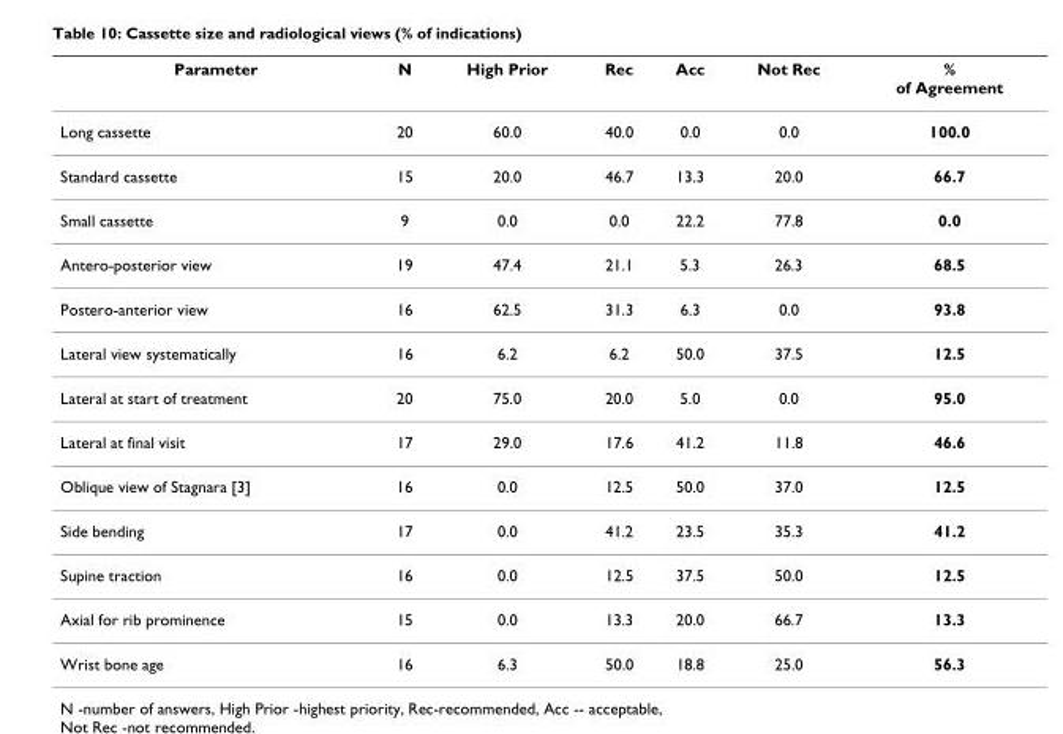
<table><thead><tr><td>Parameter</td><td>N</td><td>High Prior</td><td>Rec</td><td>Acc</td><td>Not Rec</td><td>% of Agreement</td></tr></thead><tbody><tr><td>Long cassette</td><td>20</td><td>60.0</td><td>40.0</td><td>0.0</td><td>0.0</td><td>100.0</td></tr><tr><td>Standard cassette</td><td>15</td><td>20.0</td><td>46.7</td><td>13.3</td><td>20.0</td><td>66.7</td></tr><tr><td>Small cassette</td><td>9</td><td>0.0</td><td>0.0</td><td>22.2</td><td>77.8</td><td>0.0</td></tr><tr><td>Antero-posterior view</td><td>19</td><td>47.4</td><td>21.1</td><td>5.3</td><td>26.3</td><td>68.5</td></tr><tr><td>Postero-anterior view</td><td>16</td><td>62.5</td><td>31.3</td><td>6.3</td><td>0.0</td><td>93.8</td></tr><tr><td>Lateral view systematically</td><td>16</td><td>6.2</td><td>6.2</td><td>50.0</td><td>37.5</td><td>12.5</td></tr><tr><td>Lateral at start of treatment</td><td>20</td><td>75.0</td><td>20.0</td><td>5.0</td><td>0.0</td><td>95.0</td></tr><tr><td>Lateral at final visit</td><td>17</td><td>29.0</td><td>17.6</td><td>41.2</td><td>11.8</td><td>46.6</td></tr><tr><td>Oblique view of Stagnara [3]</td><td>16</td><td>0.0</td><td>12.5</td><td>50.0</td><td>37.0</td><td>12.5</td></tr><tr><td>Side bending</td><td>17</td><td>0.0</td><td>41.2</td><td>23.5</td><td>35.3</td><td>41.2</td></tr><tr><td>Supine traction</td><td>16</td><td>0.0</td><td>12.5</td><td>37.5</td><td>50.0</td><td>12.5</td></tr><tr><td>Axial for rib prominence</td><td>15</td><td>0.0</td><td>13.3</td><td>20.0</td><td>66.7</td><td>13.3</td></tr><tr><td>Wrist bone age</td><td>16</td><td>6.3</td><td>50.0</td><td>18.8</td><td>25.0</td><td>56.3</td></tr></tbody></table>